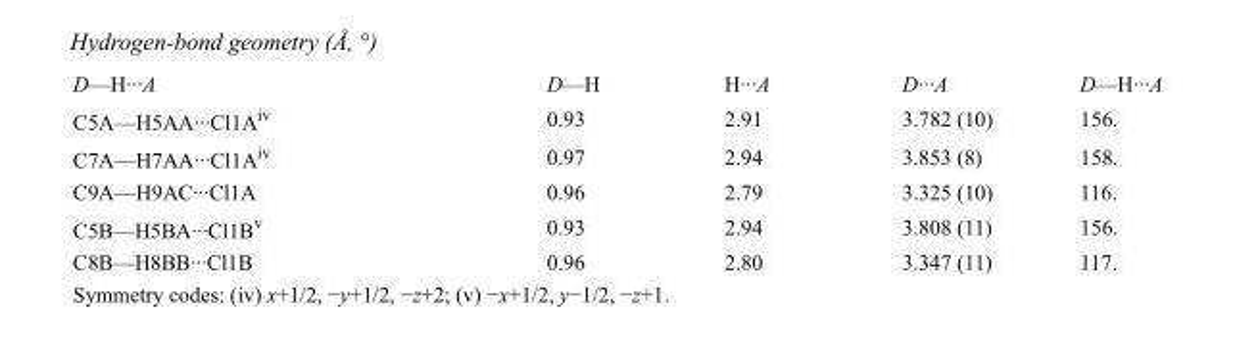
<table><tbody><tr><td>D—H···A</td><td>D—H</td><td>H···A</td><td>D···A</td><td>D—H···A</td></tr><tr><td>C5A—H5AA···Cl1A<sup>iv</sup></td><td>0.93</td><td>2.91</td><td>3.782 (10)</td><td>156.</td></tr><tr><td>C7A—H7AA···Cl1A<sup>iv</sup></td><td>0.97</td><td>2.94</td><td>3.853 (8)</td><td>158.</td></tr><tr><td>C9A—H9AC···Cl1A</td><td>0.96</td><td>2.79</td><td>3.325 (10)</td><td>116.</td></tr><tr><td>C5B—H5BA···Cl1B<sup>v</sup></td><td>0.93</td><td>2.94</td><td>3.808 (11)</td><td>156.</td></tr><tr><td>C8B—H8BB···Cl1B</td><td>0.96</td><td>2.80</td><td>3.347 (11)</td><td>117.</td></tr></tbody></table>